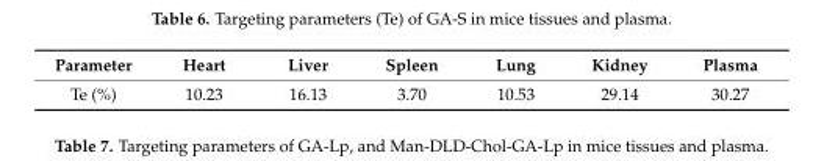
<table><thead><tr><td>Parameter</td><td>Heart</td><td>Liver</td><td>Spleen</td><td>Lung</td><td>Kidney</td><td>Plasma</td></tr></thead><tbody><tr><td>Te (%)</td><td>10.23</td><td>16.13</td><td>3.70</td><td>10.53</td><td>29.14</td><td>30.27</td></tr></tbody></table>